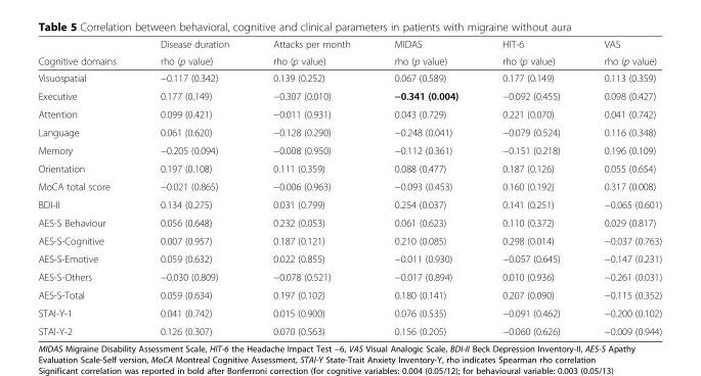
<table><thead><tr><td rowspan="2">Cognitive domains</td><td rowspan="2">Disease duration rho (p value)</td><td rowspan="2">Attacks per month rho (p value)</td><td rowspan="2">MIDAS rho (p value)</td><td rowspan="2">HIT-6 rho (p value)</td><td rowspan="2">VAS rho (p value)</td></tr><tr></tr></thead><tbody><tr><td>Visuospatial</td><td>−0.117 (0.342)</td><td>0.139 (0.252)</td><td>0.067 (0.589)</td><td>0.177 (0.149)</td><td>0.113 (0.359)</td></tr><tr><td>Executive</td><td>0.177 (0.149)</td><td>−0.307 (0.010)</td><td>−0.341 (0.004)</td><td>−0.092 (0.455)</td><td>0.098 (0.427)</td></tr><tr><td>Attention</td><td>0.099 (0.421)</td><td>−0.011 (0.931)</td><td>0.043 (0.729)</td><td>0.221 (0.070)</td><td>0.041 (0.742)</td></tr><tr><td>Language</td><td>0.061 (0.620)</td><td>−0.128 (0.290)</td><td>−0.248 (0.041)</td><td>−0.079 (0.524)</td><td>0.116 (0.348)</td></tr><tr><td>Memory</td><td>−0.205 (0.094)</td><td>−0.008 (0.950)</td><td>−0.112 (0.361)</td><td>−0.151 (0.218)</td><td>0.196 (0.109)</td></tr><tr><td>Orientation</td><td>0.197 (0.108)</td><td>0.111 (0.359)</td><td>0.088 (0.477)</td><td>0.187 (0.126)</td><td>0.055 (0.654)</td></tr><tr><td>MoCA total score</td><td>−0.021 (0.865)</td><td>−0.006 (0.963)</td><td>−0.093 (0.453)</td><td>0.160 (0.192)</td><td>0.317 (0.008)</td></tr><tr><td>BDI-II</td><td>0.134 (0.275)</td><td>0.031 (0.799)</td><td>0.254 (0.037)</td><td>0.141 (0.251)</td><td>−0.065 (0.601)</td></tr><tr><td>AES-S Behaviour</td><td>0.056 (0.648)</td><td>0.232 (0.053)</td><td>0.061 (0.623)</td><td>0.110 (0.372)</td><td>0.029 (0.817)</td></tr><tr><td>AES-S-Cognitive</td><td>0.007 (0.957)</td><td>0.187 (0.121)</td><td>0.210 (0.085)</td><td>0.298 (0.014)</td><td>−0.037 (0.763)</td></tr><tr><td>AES-S-Emotive</td><td>0.059 (0.632)</td><td>0.022 (0.855)</td><td>−0.011 (0.930)</td><td>−0.057 (0.645)</td><td>−0.147 (0.231)</td></tr><tr><td>AES-S-Others</td><td>−0.030 (0.809)</td><td>−0.078 (0.521)</td><td>−0.017 (0.894)</td><td>0.010 (0.936)</td><td>−0.261 (0.031)</td></tr><tr><td>AES-S-Total</td><td>0.059 (0.634)</td><td>0.197 (0.102)</td><td>0.180 (0.141)</td><td>0.207 (0.090)</td><td>−0.115 (0.352)</td></tr><tr><td>STAI-Y-1</td><td>0.041 (0.742)</td><td>0.015 (0.900)</td><td>0.076 (0.535)</td><td>−0.091 (0.462)</td><td>−0.200 (0.102)</td></tr><tr><td>STAI-Y-2</td><td>0.126 (0.307)</td><td>0.070 (0.563)</td><td>0.156 (0.205)</td><td>−0.060 (0.626)</td><td>−0.009 (0.944)</td></tr></tbody></table>